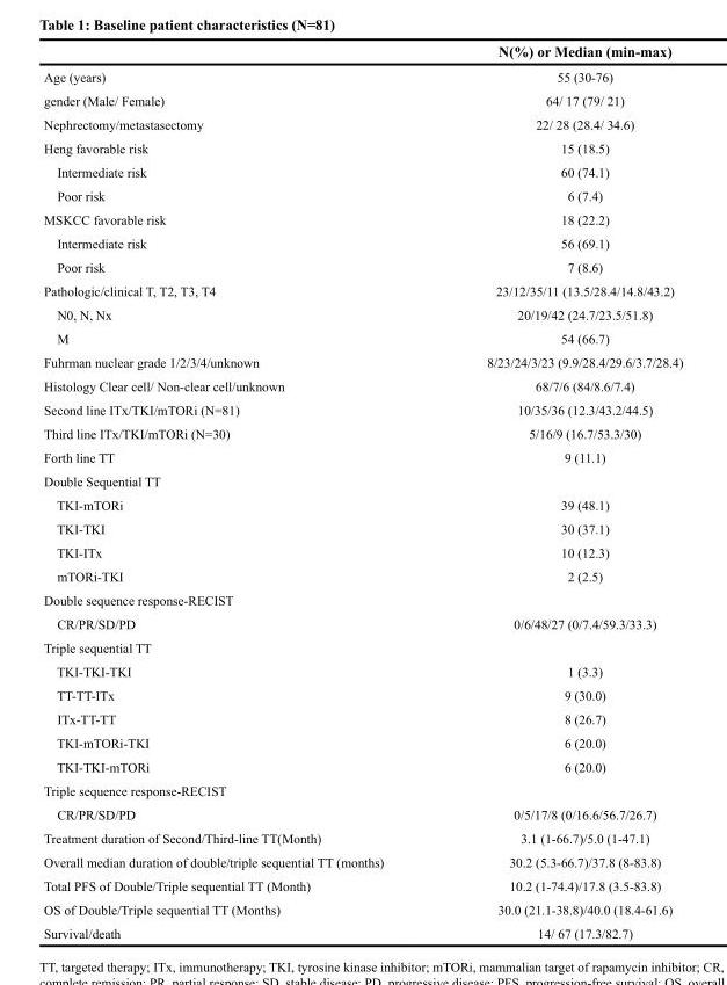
<table><thead><tr><td></td><td>N(%) or Median (min-max)</td></tr></thead><tbody><tr><td>Age (years)</td><td>55 (30-76)</td></tr><tr><td>gender (Male/ Female)</td><td>64/ 17 (79/ 21)</td></tr><tr><td>Nephrectomy/metastasectomy</td><td>22/ 28 (28.4/ 34.6)</td></tr><tr><td>Heng favorable risk</td><td>15 (18.5)</td></tr><tr><td>Intermediate risk</td><td>60 (74.1)</td></tr><tr><td>Poor risk</td><td>6 (7.4)</td></tr><tr><td>MSKCC favorable risk</td><td>18 (22.2)</td></tr><tr><td>Intermediate risk</td><td>56 (69.1)</td></tr><tr><td>Poor risk</td><td>7 (8.6)</td></tr><tr><td>Pathologic/clinical T, T2, T3, T4</td><td>23/12/35/11 (13.5/28.4/14.8/43.2)</td></tr><tr><td>N0, N, Nx</td><td>20/19/42 (24.7/23.5/51.8)</td></tr><tr><td>M</td><td>54 (66.7)</td></tr><tr><td>Fuhrman nuclear grade 1/2/3/4/unknown</td><td>8/23/24/3/23 (9.9/28.4/29.6/3.7/28.4)</td></tr><tr><td>Histology Clear cell/ Non-clear cell/unknown</td><td>68/7/6 (84/8.6/7.4)</td></tr><tr><td>Second line ITx/TKI/mTORi (N=81)</td><td>10/35/36 (12.3/43.2/44.5)</td></tr><tr><td>Third line ITx/TKI/mTORi (N=30)</td><td>5/16/9 (16.7/53.3/30)</td></tr><tr><td>Forth line TT</td><td>9 (11.1)</td></tr><tr><td colspan="2">Double Sequential TT</td></tr><tr><td>TKI-mTORi</td><td>39 (48.1)</td></tr><tr><td>TKI-TKI</td><td>30 (37.1)</td></tr><tr><td>TKI-ITx</td><td>10 (12.3)</td></tr><tr><td>mTORi-TKI</td><td>2 (2.5)</td></tr><tr><td colspan="2">Double sequence response-RECIST</td></tr><tr><td>CR/PR/SD/PD</td><td>0/6/48/27 (0/7.4/59.3/33.3)</td></tr><tr><td colspan="2">Triple sequential TT</td></tr><tr><td>TKI-TKI-TKI</td><td>1 (3.3)</td></tr><tr><td>TT-TT-ITx</td><td>9 (30.0)</td></tr><tr><td>ITx-TT-TT</td><td>8 (26.7)</td></tr><tr><td>TKI-mTORi-TKI</td><td>6 (20.0)</td></tr><tr><td>TKI-TKI-mTORi</td><td>6 (20.0)</td></tr><tr><td colspan="2">Triple sequence response-RECIST</td></tr><tr><td>CR/PR/SD/PD</td><td>0/5/17/8 (0/16.6/56.7/26.7)</td></tr><tr><td>Treatment duration of Second/Third-line TT(Month)</td><td>3.1 (1-66.7)/5.0 (1-47.1)</td></tr><tr><td>Overall median duration of double/triple sequential TT (months)</td><td>30.2 (5.3-66.7)/37.8 (8-83.8)</td></tr><tr><td>Total PFS of Double/Triple sequential TT (Month)</td><td>10.2 (1-74.4)/17.8 (3.5-83.8)</td></tr><tr><td>OS of Double/Triple sequential TT (Months)</td><td>30.0 (21.1-38.8)/40.0 (18.4-61.6)</td></tr><tr><td>Survival/death</td><td>14/ 67 (17.3/82.7)</td></tr></tbody></table>